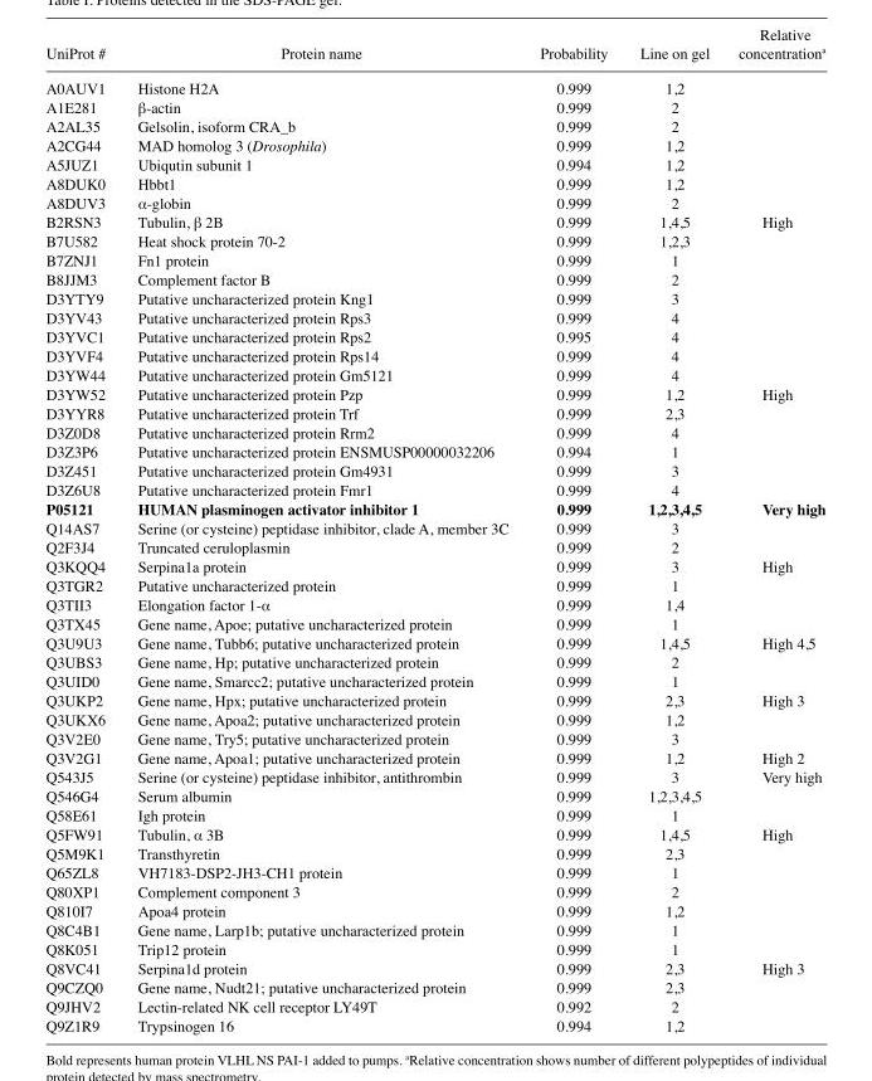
<table><thead><tr><td>UniProt #</td><td>Protein name</td><td>Probability</td><td>Line on gel</td><td>concentrationa</td></tr></thead><tbody><tr><td>A0AUV1</td><td>Histone H2A</td><td>0.999</td><td>1,2</td><td></td></tr><tr><td>A1E281</td><td>β-actin</td><td>0.999</td><td>2</td><td></td></tr><tr><td>A2AL35</td><td>Gelsolin, isoform CRA_b</td><td>0.999</td><td>2</td><td></td></tr><tr><td>A2CG44</td><td>MAD homolog 3 (Drosophila)</td><td>0.999</td><td>1,2</td><td></td></tr><tr><td>A5JUZ1</td><td>Ubiqutin subunit 1</td><td>0.994</td><td>1,2</td><td></td></tr><tr><td>A8DUK0</td><td>Hbbt1</td><td>0.999</td><td>1,2</td><td></td></tr><tr><td>A8DUV3</td><td>α-globin</td><td>0.999</td><td>2</td><td></td></tr><tr><td>B2RSN3</td><td>Tubulin, β 2B</td><td>0.999</td><td>1,4,5</td><td>High</td></tr><tr><td>B7U582</td><td>Heat shock protein 70-2</td><td>0.999</td><td>1,2,3</td><td></td></tr><tr><td>B7ZNJ1</td><td>Fn1 protein</td><td>0.999</td><td>1</td><td></td></tr><tr><td>B8JJM3</td><td>Complement factor B</td><td>0.999</td><td>2</td><td></td></tr><tr><td>D3YTY9</td><td>Putative uncharacterized protein Kng1</td><td>0.999</td><td>3</td><td></td></tr><tr><td>D3YV43</td><td>Putative uncharacterized protein Rps3</td><td>0.999</td><td>4</td><td></td></tr><tr><td>D3YVC1</td><td>Putative uncharacterized protein Rps2</td><td>0.995</td><td>4</td><td></td></tr><tr><td>D3YVF4</td><td>Putative uncharacterized protein Rps14</td><td>0.999</td><td>4</td><td></td></tr><tr><td>D3YW44</td><td>Putative uncharacterized protein Gm5121</td><td>0.999</td><td>4</td><td></td></tr><tr><td>D3YW52</td><td>Putative uncharacterized protein Pzp</td><td>0.999</td><td>1,2</td><td>High</td></tr><tr><td>D3YYR8</td><td>Putative uncharacterized protein Trf</td><td>0.999</td><td>2,3</td><td></td></tr><tr><td>D3Z0D8</td><td>Putative uncharacterized protein Rrm2</td><td>0.999</td><td>4</td><td></td></tr><tr><td>D3Z3P6</td><td>Putative uncharacterized protein ENSMUSP00000032206</td><td>0.994</td><td>1</td><td></td></tr><tr><td>D3Z451</td><td>Putative uncharacterized protein Gm4931</td><td>0.999</td><td>3</td><td></td></tr><tr><td>D3Z6U8</td><td>Putative uncharacterized protein Fmr1</td><td>0.999</td><td>4</td><td></td></tr><tr><td>P05121</td><td>HUMAN plasminogen activator inhibitor 1</td><td>0.999</td><td>1,2,3,4,5</td><td>Very high</td></tr><tr><td>Q14AS7</td><td>Serine (or cysteine) peptidase inhibitor, clade A, member 3C</td><td>0.999</td><td>3</td><td></td></tr><tr><td>Q2F3J4</td><td>Truncated ceruloplasmin</td><td>0.999</td><td>2</td><td></td></tr><tr><td>Q3KQQ4</td><td>Serpina1a protein</td><td>0.999</td><td>3</td><td>High</td></tr><tr><td>Q3TGR2</td><td>Putative uncharacterized protein</td><td>0.999</td><td>1</td><td></td></tr><tr><td>Q3TII3</td><td>Elongation factor 1-α</td><td>0.999</td><td>1,4</td><td></td></tr><tr><td>Q3TX45</td><td>Gene name, Apoe; putative uncharacterized protein</td><td>0.999</td><td>1</td><td></td></tr><tr><td>Q3U9U3</td><td>Gene name, Tubb6; putative uncharacterized protein</td><td>0.999</td><td>1,4,5</td><td>High 4,5</td></tr><tr><td>Q3UBS3</td><td>Gene name, Hp; putative uncharacterized protein</td><td>0.999</td><td>2</td><td></td></tr><tr><td>Q3UID0</td><td>Gene name, Smarcc2; putative uncharacterized protein</td><td>0.999</td><td>1</td><td></td></tr><tr><td>Q3UKP2</td><td>Gene name, Hpx; putative uncharacterized protein</td><td>0.999</td><td>2,3</td><td>High 3</td></tr><tr><td>Q3UKX6</td><td>Gene name, Apoa2; putative uncharacterized protein</td><td>0.999</td><td>1,2</td><td></td></tr><tr><td>Q3V2E0</td><td>Gene name, Try5; putative uncharacterized protein</td><td>0.999</td><td>3</td><td></td></tr><tr><td>Q3V2G1</td><td>Gene name, Apoa1; putative uncharacterized protein</td><td>0.999</td><td>1,2</td><td>High 2</td></tr><tr><td>Q543J5</td><td>Serine (or cysteine) peptidase inhibitor, antithrombin</td><td>0.999</td><td>3</td><td>Very high</td></tr><tr><td>Q546G4</td><td>Serum albumin</td><td>0.999</td><td>1,2,3,4,5</td><td></td></tr><tr><td>Q58E61</td><td>Igh protein</td><td>0.999</td><td>1</td><td></td></tr><tr><td>Q5FW91</td><td>Tubulin, α 3B</td><td>0.999</td><td>1,4,5</td><td>High</td></tr><tr><td>Q5M9K1</td><td>Transthyretin</td><td>0.999</td><td>2,3</td><td></td></tr><tr><td>Q65ZL8</td><td>VH7183-DSP2-JH3-CH1 protein</td><td>0.999</td><td>1</td><td></td></tr><tr><td>Q80XP1</td><td>Complement component 3</td><td>0.999</td><td>2</td><td></td></tr><tr><td>Q810I7</td><td>Apoa4 protein</td><td>0.999</td><td>1,2</td><td></td></tr><tr><td>Q8C4B1</td><td>Gene name, Larp1b; putative uncharacterized protein</td><td>0.999</td><td>1</td><td></td></tr><tr><td>Q8K051</td><td>Trip12 protein</td><td>0.999</td><td>1</td><td></td></tr><tr><td>Q8VC41</td><td>Serpina1d protein</td><td>0.999</td><td>2,3</td><td>High 3</td></tr><tr><td>Q9CZQ0</td><td>Gene name, Nudt21; putative uncharacterized protein</td><td>0.999</td><td>2,3</td><td></td></tr><tr><td>Q9JHV2</td><td>Lectin-related NK cell receptor LY49T</td><td>0.992</td><td>2</td><td></td></tr><tr><td>Q9Z1R9</td><td>Trypsinogen 16</td><td>0.994</td><td>1,2</td><td></td></tr></tbody></table>